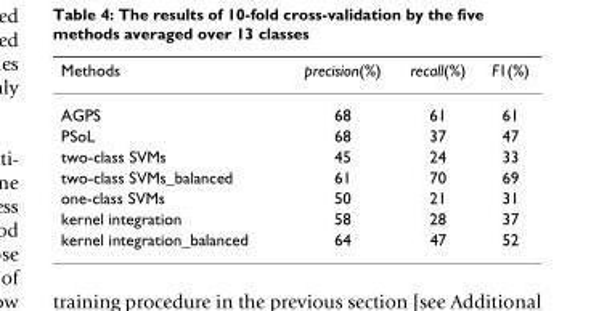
<table><thead><tr><td>Methods</td><td>precision(%)</td><td>recall(%)</td><td>F1(%)</td></tr></thead><tbody><tr><td>AGPS</td><td>68</td><td>61</td><td>61</td></tr><tr><td>PSoL</td><td>68</td><td>37</td><td>47</td></tr><tr><td>two-class SVMs</td><td>45</td><td>24</td><td>33</td></tr><tr><td>two-class SVMs_balanced</td><td>61</td><td>70</td><td>69</td></tr><tr><td>one-class SVMs</td><td>50</td><td>21</td><td>31</td></tr><tr><td>kernel integration</td><td>58</td><td>28</td><td>37</td></tr><tr><td>kernel integration_balanced</td><td>64</td><td>47</td><td>52</td></tr></tbody></table>